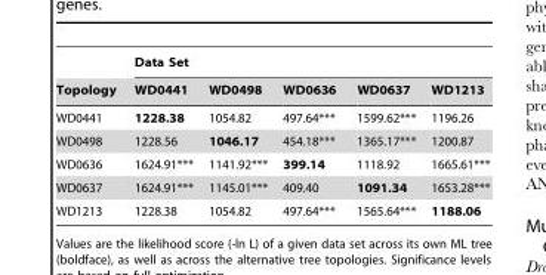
<table><thead><tr><td rowspan="2">Topology</td><td colspan="5">Data Set</td></tr><tr><td>WD0441</td><td>WD0498</td><td>WD0636</td><td>WD0637</td><td>WD1213</td></tr></thead><tbody><tr><td>WD0441</td><td>1228.38</td><td>1054.82</td><td>497.64***</td><td>1599.62***</td><td>1196.26</td></tr><tr><td>WD0498</td><td>1228.56</td><td>1046.17</td><td>454.18***</td><td>1365.17***</td><td>1200.87</td></tr><tr><td>WD0636</td><td>1624.91***</td><td>1141.92***</td><td>399.14</td><td>1118.92</td><td>1665.61***</td></tr><tr><td>WD0637</td><td>1624.91***</td><td>1145.01***</td><td>409.40</td><td>1091.34</td><td>1653.28***</td></tr><tr><td>WD1213</td><td>1228.38</td><td>1054.82</td><td>497.64***</td><td>1565.64***</td><td>1188.06</td></tr></tbody></table>